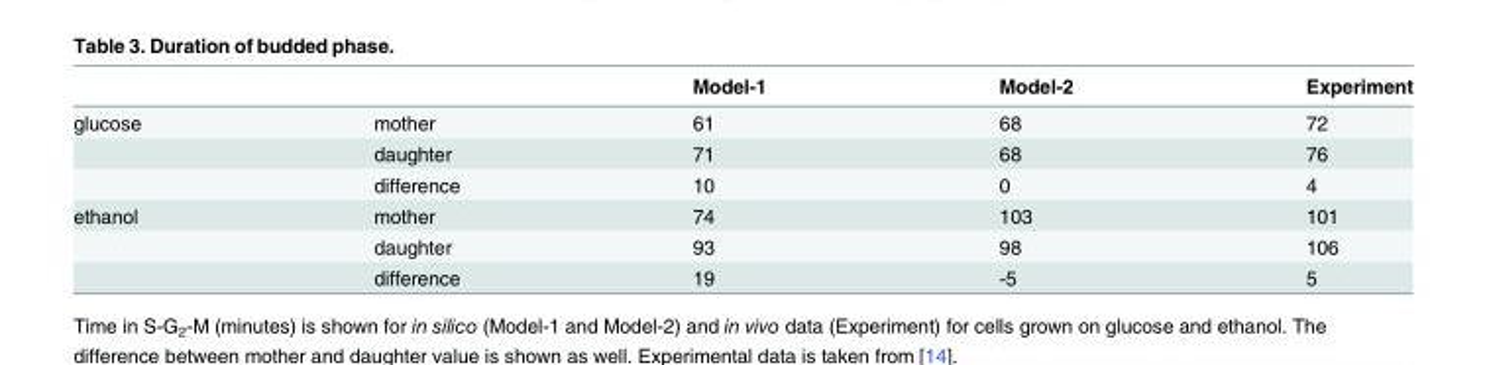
<table><thead><tr><td></td><td></td><td>Model-1</td><td>Model-2</td><td>Experiment</td></tr></thead><tbody><tr><td rowspan="3">glucose</td><td>mother</td><td>61</td><td>68</td><td>72</td></tr><tr><td>daughter</td><td>71</td><td>68</td><td>76</td></tr><tr><td>difference</td><td>10</td><td>0</td><td>4</td></tr><tr><td rowspan="3">ethanol</td><td>mother</td><td>74</td><td>103</td><td>101</td></tr><tr><td>daughter</td><td>93</td><td>98</td><td>106</td></tr><tr><td>difference</td><td>19</td><td>-5</td><td>5</td></tr></tbody></table>